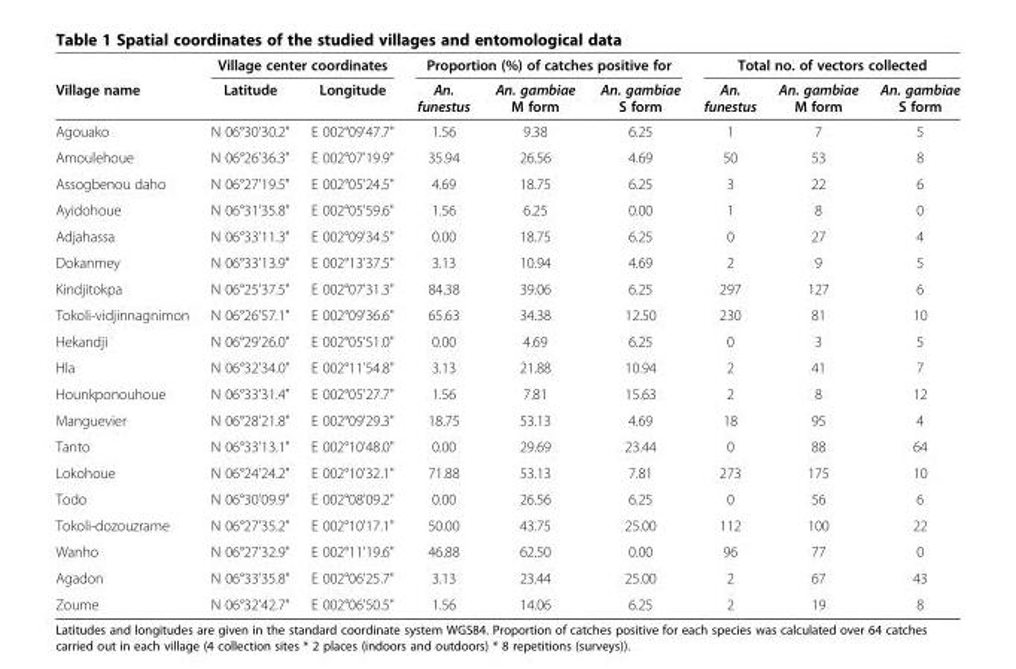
<table><thead><tr><td rowspan="2">Village name</td><td colspan="2">Village center coordinates</td><td colspan="3">Proportion (%) of catches positive for</td><td colspan="3">Total no. of vectors collected</td></tr><tr><td>Latitude</td><td>Longitude</td><td>An. funestus</td><td>An. gambiae M form</td><td>An. gambiae S form</td><td>An. funestus</td><td>An. gambiae M form</td><td>An. gambiae S form</td></tr></thead><tbody><tr><td>Agouako</td><td>N 06°30&#x27;30.2&quot;</td><td>E 002°09&#x27;47.7&quot;</td><td>1.56</td><td>9.38</td><td>6.25</td><td>1</td><td>7</td><td>5</td></tr><tr><td>Amoulehoue</td><td>N 06°26&#x27;36.3&quot;</td><td>E 002°07&#x27;19.9&quot;</td><td>35.94</td><td>26.56</td><td>4.69</td><td>50</td><td>53</td><td>8</td></tr><tr><td>Assogbenou daho</td><td>N 06°27&#x27;19.5&quot;</td><td>E 002°05&#x27;24.5&quot;</td><td>4.69</td><td>18.75</td><td>6.25</td><td>3</td><td>22</td><td>6</td></tr><tr><td>Ayidohoue</td><td>N 06°31&#x27;35.8&quot;</td><td>E 002°05&#x27;59.6&quot;</td><td>1.56</td><td>6.25</td><td>0.00</td><td>1</td><td>8</td><td>0</td></tr><tr><td>Adjahassa</td><td>N 06°33&#x27;11.3&quot;</td><td>E 002°09&#x27;34.5&quot;</td><td>0.00</td><td>18.75</td><td>6.25</td><td>0</td><td>27</td><td>4</td></tr><tr><td>Dokanmey</td><td>N 06°33&#x27;13.9&quot;</td><td>E 002°13&#x27;37.5&quot;</td><td>3.13</td><td>10.94</td><td>4.69</td><td>2</td><td>9</td><td>5</td></tr><tr><td>Kindjitokpa</td><td>N 06°25&#x27;37.5&quot;</td><td>E 002°07&#x27;31.3&quot;</td><td>84.38</td><td>39.06</td><td>6.25</td><td>297</td><td>127</td><td>6</td></tr><tr><td>Tokoli-vidjinnagnimon</td><td>N 06°26&#x27;57.1&quot;</td><td>E 002°09&#x27;36.6&quot;</td><td>65.63</td><td>34.38</td><td>12.50</td><td>230</td><td>81</td><td>10</td></tr><tr><td>Hekandji</td><td>N 06°29&#x27;26.0&quot;</td><td>E 002°05&#x27;51.0&quot;</td><td>0.00</td><td>4.69</td><td>6.25</td><td>0</td><td>3</td><td>5</td></tr><tr><td>Hla</td><td>N 06°32&#x27;34.0&quot;</td><td>E 002°11&#x27;54.8&quot;</td><td>3.13</td><td>21.88</td><td>10.94</td><td>2</td><td>41</td><td>7</td></tr><tr><td>Hounkponouhoue</td><td>N 06°33&#x27;31.4&quot;</td><td>E 002°05&#x27;27.7&quot;</td><td>1.56</td><td>7.81</td><td>15.63</td><td>2</td><td>8</td><td>12</td></tr><tr><td>Manguevier</td><td>N 06°28&#x27;21.8&quot;</td><td>E 002°09&#x27;29.3&quot;</td><td>18.75</td><td>53.13</td><td>4.69</td><td>18</td><td>95</td><td>4</td></tr><tr><td>Tanto</td><td>N 06°33&#x27;13.1&quot;</td><td>E 002°10&#x27;48.0&quot;</td><td>0.00</td><td>29.69</td><td>23.44</td><td>0</td><td>88</td><td>64</td></tr><tr><td>Lokohoue</td><td>N 06°24&#x27;24.2&quot;</td><td>E 002°10&#x27;32.1&quot;</td><td>71.88</td><td>53.13</td><td>7.81</td><td>273</td><td>175</td><td>10</td></tr><tr><td>Todo</td><td>N 06°30&#x27;09.9&quot;</td><td>E 002°08&#x27;09.2&quot;</td><td>0.00</td><td>26.56</td><td>6.25</td><td>0</td><td>56</td><td>6</td></tr><tr><td>Tokoli-dozouzrame</td><td>N 06°27&#x27;35.2&quot;</td><td>E 002°10&#x27;17.1&quot;</td><td>50.00</td><td>43.75</td><td>25.00</td><td>112</td><td>100</td><td>22</td></tr><tr><td>Wanho</td><td>N 06°27&#x27;32.9&quot;</td><td>E 002°11&#x27;19.6&quot;</td><td>46.88</td><td>62.50</td><td>0.00</td><td>96</td><td>77</td><td>0</td></tr><tr><td>Agadon</td><td>N 06°33&#x27;35.8&quot;</td><td>E 002°06&#x27;25.7&quot;</td><td>3.13</td><td>23.44</td><td>25.00</td><td>2</td><td>67</td><td>43</td></tr><tr><td>Zoume</td><td>N 06°32&#x27;42.7&quot;</td><td>E 002°06&#x27;50.5&quot;</td><td>1.56</td><td>14.06</td><td>6.25</td><td>2</td><td>19</td><td>8</td></tr></tbody></table>